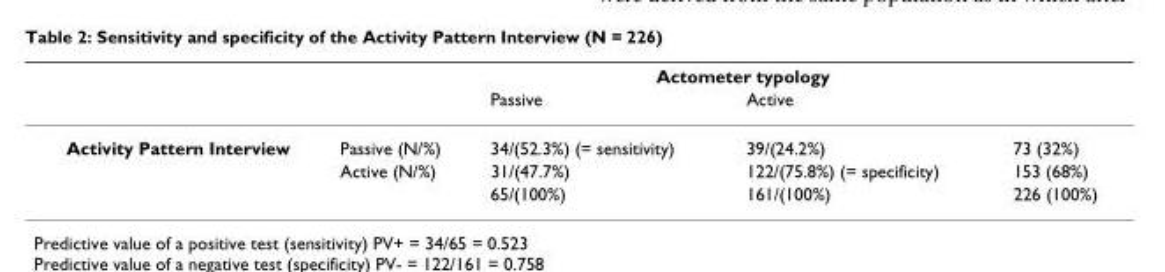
<table><thead><tr><td rowspan="2"></td><td rowspan="2"></td><td colspan="2">Actometer typology</td><td rowspan="2"></td></tr><tr><td>Passive</td><td>Active</td></tr></thead><tbody><tr><td rowspan="3">Activity Pattern Interview</td><td>Passive (N/%)</td><td>34/(52.3%) (= sensitivity)</td><td>39/(24.2%)</td><td>73 (32%)</td></tr><tr><td>Active (N/%)</td><td>31/(47.7%)</td><td>122/(75.8%) (= specificity)</td><td>153 (68%)</td></tr><tr><td></td><td>65/(100%)</td><td>161/(100%)</td><td>226 (100%)</td></tr></tbody></table>